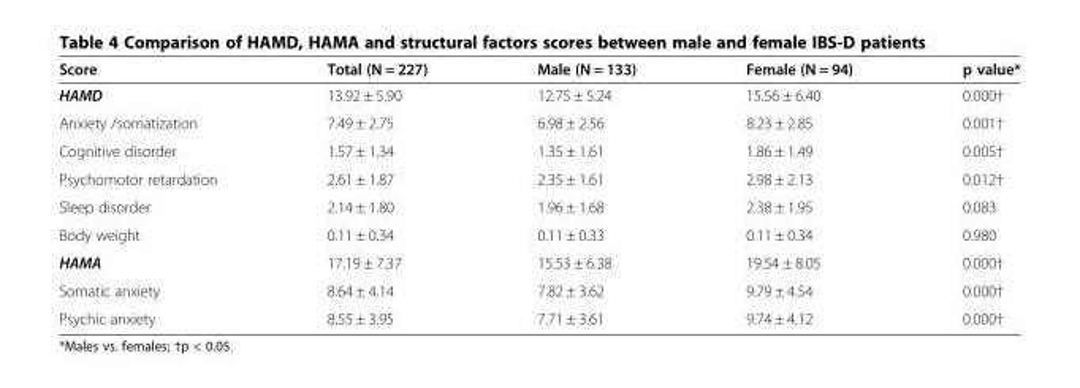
<table><thead><tr><td>Score</td><td>Total (N = 227)</td><td>Male (N = 133)</td><td>Female (N = 94)</td><td>p value*</td></tr></thead><tbody><tr><td>HAMD</td><td>13.92 ± 5.90</td><td>12.75 ± 5.24</td><td>15.56 ± 6.40</td><td>0.000†</td></tr><tr><td>Anxiety /somatization</td><td>7.49 ± 2.75</td><td>6.98 ± 2.56</td><td>8.23 ± 2.85</td><td>0.001†</td></tr><tr><td>Cognitive disorder</td><td>1.57 ± 1.34</td><td>1.35 ± 1.61</td><td>1.86 ± 1.49</td><td>0.005†</td></tr><tr><td>Psychomotor retardation</td><td>2.61 ± 1.87</td><td>2.35 ± 1.61</td><td>2.98 ± 2.13</td><td>0.012†</td></tr><tr><td>Sleep disorder</td><td>2.14 ± 1.80</td><td>1.96 ± 1.68</td><td>2.38 ± 1.95</td><td>0.083</td></tr><tr><td>Body weight</td><td>0.11 ± 0.34</td><td>0.11 ± 0.33</td><td>0.11 ± 0.34</td><td>0.980</td></tr><tr><td>HAMA</td><td>17.19 ± 7.37</td><td>15.53 ± 6.38</td><td>19.54 ± 8.05</td><td>0.000†</td></tr><tr><td>Somatic anxiety</td><td>8.64 ± 4.14</td><td>7.82 ± 3.62</td><td>9.79 ± 4.54</td><td>0.000†</td></tr><tr><td>Psychic anxiety</td><td>8.55 ± 3.95</td><td>7.71 ± 3.61</td><td>9.74 ± 4.12</td><td>0.000†</td></tr></tbody></table>